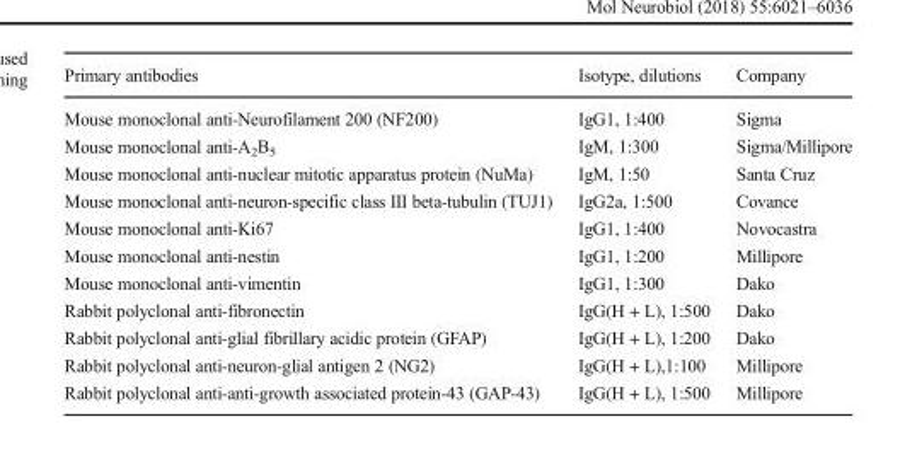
<table><thead><tr><td>Primary antibodies</td><td>Isotype, dilutions</td><td>Company</td></tr></thead><tbody><tr><td>Mouse monoclonal anti-Neurofilament 200 (NF200)</td><td>IgG1, 1:400</td><td>Sigma</td></tr><tr><td>Mouse monoclonal anti-A<sub>2</sub>B<sub>5</sub></td><td>IgM, 1:300</td><td>Sigma/Millipore</td></tr><tr><td>Mouse monoclonal anti-nuclear mitotic apparatus protein (NuMa)</td><td>IgM, 1:50</td><td>Santa Cruz</td></tr><tr><td>Mouse monoclonal anti-neuron-specific class III beta-tubulin (TUJ1)</td><td>IgG2a, 1:500</td><td>Covance</td></tr><tr><td>Mouse monoclonal anti-Ki67</td><td>IgG1, 1:400</td><td>Novocastra</td></tr><tr><td>Mouse monoclonal anti-nestin</td><td>IgG1, 1:200</td><td>Millipore</td></tr><tr><td>Mouse monoclonal anti-vimentin</td><td>IgG1, 1:300</td><td>Dako</td></tr><tr><td>Rabbit polyclonal anti-fibronectin</td><td>IgG(H + L), 1:500</td><td>Dako</td></tr><tr><td>Rabbit polyclonal anti-glial fibrillary acidic protein (GFAP)</td><td>IgG(H + L), 1:200</td><td>Dako</td></tr><tr><td>Rabbit polyclonal anti-neuron-glial antigen 2 (NG2)</td><td>IgG(H + L),1:100</td><td>Millipore</td></tr><tr><td>Rabbit polyclonal anti-anti-growth associated protein-43 (GAP-43)</td><td>IgG(H + L), 1:500</td><td>Millipore</td></tr></tbody></table>